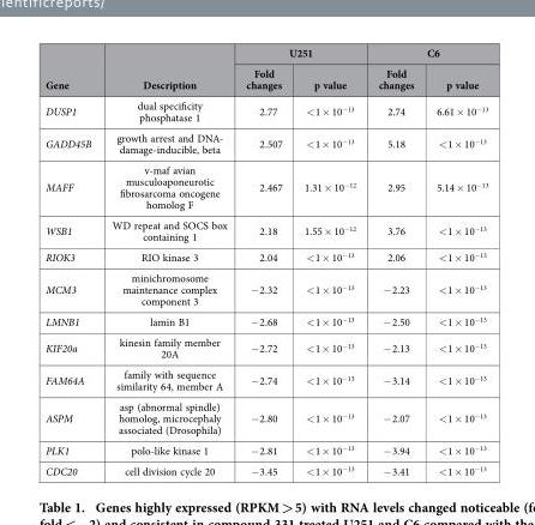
<table><thead><tr><td rowspan="2">Gene</td><td rowspan="2">Description</td><td colspan="2">U251</td><td colspan="2">C6</td></tr><tr><td>Fold changes</td><td>p value</td><td>Fold changes</td><td>p value</td></tr></thead><tbody><tr><td>DUSP1</td><td>dual specificity phosphatase 1</td><td>2.77</td><td>&lt; 1 × 10<sup>−13</sup></td><td>2.74</td><td>6.61 × 10<sup>−13</sup></td></tr><tr><td>GADD45B</td><td>growth arrest and DNA- damage-inducible, beta</td><td>2.507</td><td>&lt; 1 × 10<sup>−13</sup></td><td>5.18</td><td>&lt; 1 × 10<sup>−13</sup></td></tr><tr><td>MAFF</td><td>v-maf avian musculoaponeurotic fibrosarcoma oncogene homolog F</td><td>2.467</td><td>1.31 × 10<sup>−12</sup></td><td>2.95</td><td>5.14 × 10<sup>−13</sup></td></tr><tr><td>WSB1</td><td>WD repeat and SOCS box containing 1</td><td>2.18</td><td>1.55 × 10<sup>−12</sup></td><td>3.76</td><td>&lt; 1 × 10<sup>−13</sup></td></tr><tr><td>RIOK3</td><td>RIO kinase 3</td><td>2.04</td><td>&lt; 1 × 10<sup>−13</sup></td><td>2.06</td><td>&lt; 1 × 10<sup>−13</sup></td></tr><tr><td>MCM3</td><td>minichromosome maintenance complex component 3</td><td>− 2.32</td><td>&lt; 1 × 10<sup>−13</sup></td><td>− 2.23</td><td>&lt; 1 × 10<sup>−13</sup></td></tr><tr><td>LMNB1</td><td>lamin B1</td><td>− 2.68</td><td>&lt; 1 × 10<sup>−13</sup></td><td>− 2.50</td><td>&lt; 1 × 10<sup>−13</sup></td></tr><tr><td>KIF20a</td><td>kinesin family member 20A</td><td>− 2.72</td><td>&lt; 1 × 10<sup>−13</sup></td><td>− 2.13</td><td>&lt; 1 × 10<sup>−13</sup></td></tr><tr><td>FAM64A</td><td>family with sequence similarity 64, member A</td><td>− 2.74</td><td>&lt; 1 × 10<sup>−13</sup></td><td>− 3.14</td><td>&lt; 1 × 10<sup>−13</sup></td></tr><tr><td>ASPM</td><td>asp (abnormal spindle) homolog, microcephaly associated (Drosophila)</td><td>− 2.80</td><td>&lt; 1 × 10<sup>−13</sup></td><td>− 2.07</td><td>&lt; 1 × 10<sup>−13</sup></td></tr><tr><td>PLK1</td><td>polo-like kinase 1</td><td>− 2.81</td><td>&lt; 1 × 10<sup>−13</sup></td><td>− 3.94</td><td>&lt; 1 × 10<sup>−13</sup></td></tr><tr><td>CDC20</td><td>cell division cycle 20</td><td>− 3.45</td><td>&lt; 1 × 10<sup>−13</sup></td><td>− 3.41</td><td>&lt; 1 × 10<sup>−13</sup></td></tr></tbody></table>